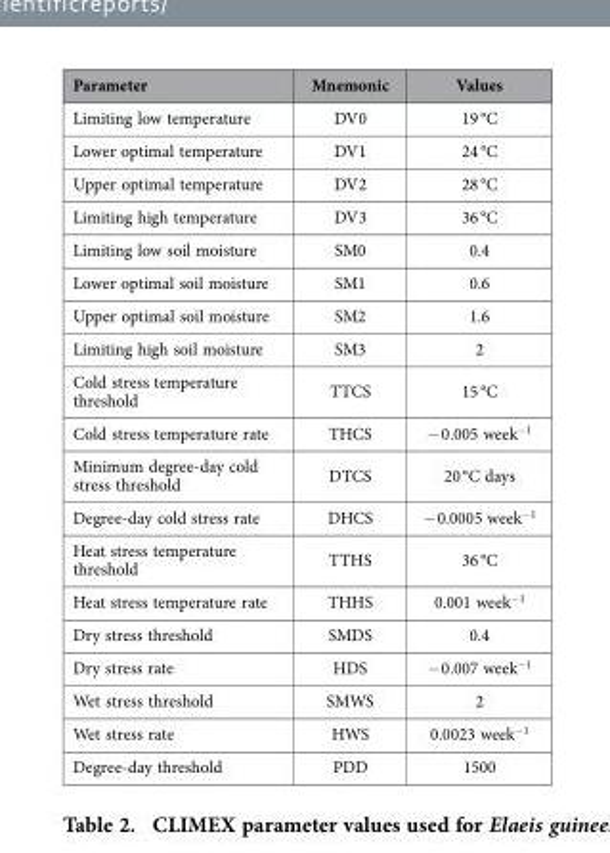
<table><thead><tr><td>Parameter</td><td>Mnemonic</td><td>Values</td></tr></thead><tbody><tr><td>Limiting low temperature</td><td>DV0</td><td>19 °C</td></tr><tr><td>Lower optimal temperature</td><td>DV1</td><td>24 °C</td></tr><tr><td>Upper optimal temperature</td><td>DV2</td><td>28 °C</td></tr><tr><td>Limiting high temperature</td><td>DV3</td><td>36 °C</td></tr><tr><td>Limiting low soil moisture</td><td>SM0</td><td>0.4</td></tr><tr><td>Lower optimal soil moisture</td><td>SM1</td><td>0.6</td></tr><tr><td>Upper optimal soil moisture</td><td>SM2</td><td>1.6</td></tr><tr><td>Limiting high soil moisture</td><td>SM3</td><td>2</td></tr><tr><td>Cold stress temperature threshold</td><td>TTCS</td><td>15 °C</td></tr><tr><td>Cold stress temperature rate</td><td>THCS</td><td>− 0.005 week<sup>−1</sup></td></tr><tr><td>Minimum degree-day cold stress threshold</td><td>DTCS</td><td>20 °C days</td></tr><tr><td>Degree-day cold stress rate</td><td>DHCS</td><td>− 0.0005 week<sup>−1</sup></td></tr><tr><td>Heat stress temperature threshold</td><td>TTHS</td><td>36 °C</td></tr><tr><td>Heat stress temperature rate</td><td>THHS</td><td>0.001 week<sup>−1</sup></td></tr><tr><td>Dry stress threshold</td><td>SMDS</td><td>0.4</td></tr><tr><td>Dry stress rate</td><td>HDS</td><td>− 0.007 week<sup>−1</sup></td></tr><tr><td>Wet stress threshold</td><td>SMWS</td><td>2</td></tr><tr><td>Wet stress rate</td><td>HWS</td><td>0.0023 week<sup>−1</sup></td></tr><tr><td>Degree-day threshold</td><td>PDD</td><td>1500</td></tr></tbody></table>